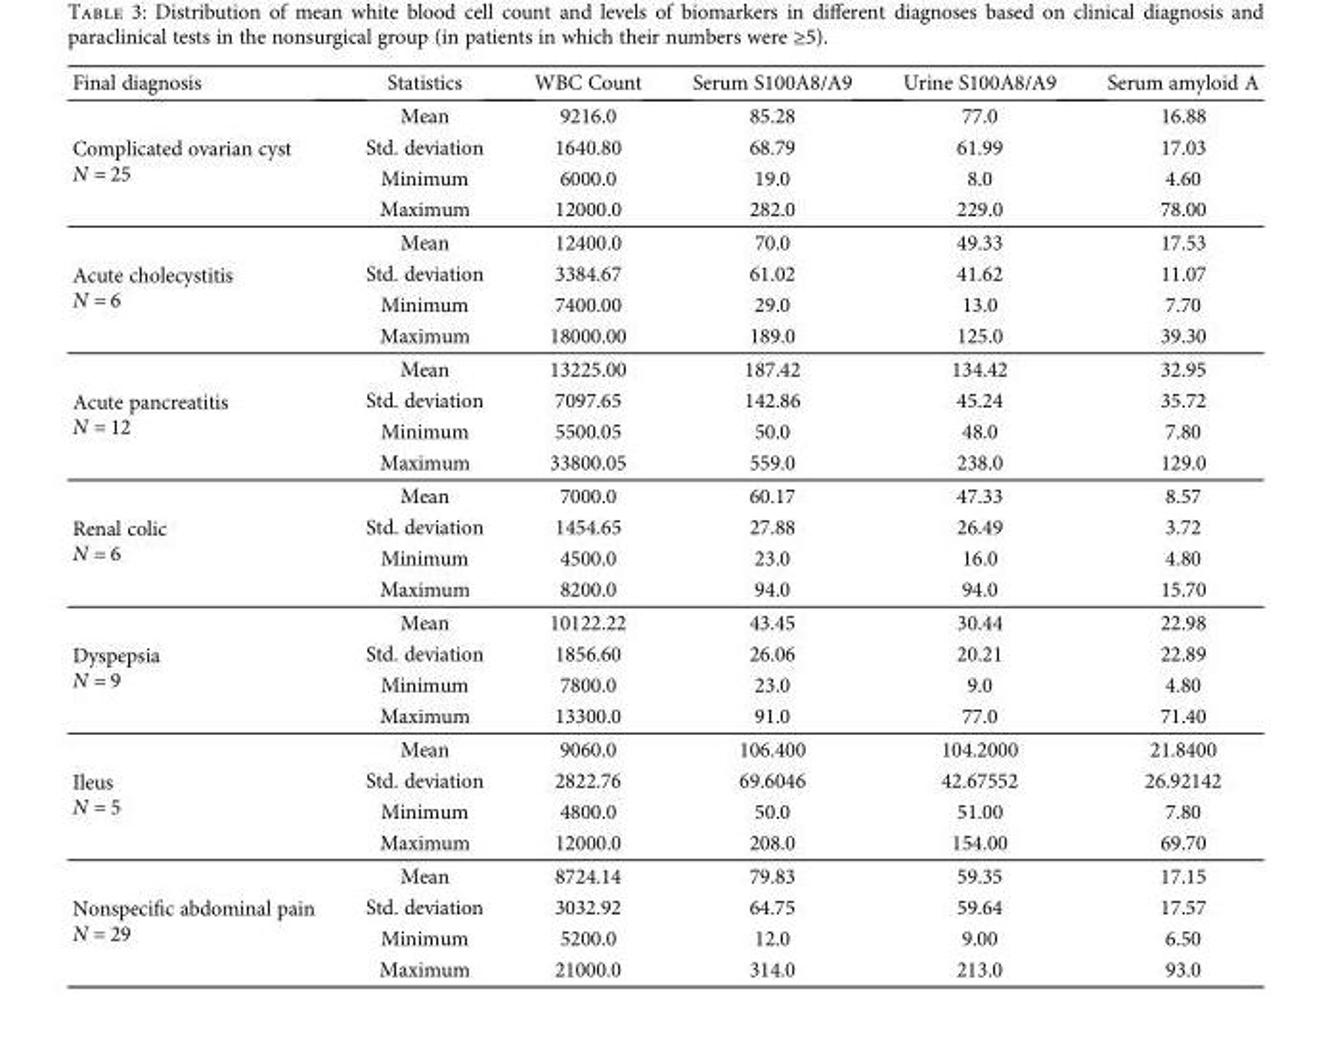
<table><thead><tr><td>Final diagnosis</td><td>Statistics</td><td>WBC Count</td><td>Serum S100A8/A9</td><td>Urine S100A8/A9</td><td>Serum amyloid A</td></tr></thead><tbody><tr><td rowspan="4">Complicated ovarian cyst N = 25</td><td>Mean</td><td>9216.0</td><td>85.28</td><td>77.0</td><td>16.88</td></tr><tr><td>Std. deviation</td><td>1640.80</td><td>68.79</td><td>61.99</td><td>17.03</td></tr><tr><td>Minimum</td><td>6000.0</td><td>19.0</td><td>8.0</td><td>4.60</td></tr><tr><td>Maximum</td><td>12000.0</td><td>282.0</td><td>229.0</td><td>78.00</td></tr><tr><td rowspan="4">Acute cholecystitis N = 6</td><td>Mean</td><td>12400.0</td><td>70.0</td><td>49.33</td><td>17.53</td></tr><tr><td>Std. deviation</td><td>3384.67</td><td>61.02</td><td>41.62</td><td>11.07</td></tr><tr><td>Minimum</td><td>7400.00</td><td>29.0</td><td>13.0</td><td>7.70</td></tr><tr><td>Maximum</td><td>18000.00</td><td>189.0</td><td>125.0</td><td>39.30</td></tr><tr><td rowspan="4">Acute pancreatitis N = 12</td><td>Mean</td><td>13225.00</td><td>187.42</td><td>134.42</td><td>32.95</td></tr><tr><td>Std. deviation</td><td>7097.65</td><td>142.86</td><td>45.24</td><td>35.72</td></tr><tr><td>Minimum</td><td>5500.05</td><td>50.0</td><td>48.0</td><td>7.80</td></tr><tr><td>Maximum</td><td>33800.05</td><td>559.0</td><td>238.0</td><td>129.0</td></tr><tr><td rowspan="4">Renal colic N = 6</td><td>Mean</td><td>7000.0</td><td>60.17</td><td>47.33</td><td>8.57</td></tr><tr><td>Std. deviation</td><td>1454.65</td><td>27.88</td><td>26.49</td><td>3.72</td></tr><tr><td>Minimum</td><td>4500.0</td><td>23.0</td><td>16.0</td><td>4.80</td></tr><tr><td>Maximum</td><td>8200.0</td><td>94.0</td><td>94.0</td><td>15.70</td></tr><tr><td rowspan="4">Dyspepsia N = 9</td><td>Mean</td><td>10122.22</td><td>43.45</td><td>30.44</td><td>22.98</td></tr><tr><td>Std. deviation</td><td>1856.60</td><td>26.06</td><td>20.21</td><td>22.89</td></tr><tr><td>Minimum</td><td>7800.0</td><td>23.0</td><td>9.0</td><td>4.80</td></tr><tr><td>Maximum</td><td>13300.0</td><td>91.0</td><td>77.0</td><td>71.40</td></tr><tr><td rowspan="4">Ileus N = 5</td><td>Mean</td><td>9060.0</td><td>106.400</td><td>104.2000</td><td>21.8400</td></tr><tr><td>Std. deviation</td><td>2822.76</td><td>69.6046</td><td>42.67552</td><td>26.92142</td></tr><tr><td>Minimum</td><td>4800.0</td><td>50.0</td><td>51.00</td><td>7.80</td></tr><tr><td>Maximum</td><td>12000.0</td><td>208.0</td><td>154.00</td><td>69.70</td></tr><tr><td rowspan="4">Nonspecific abdominal pain N = 29</td><td>Mean</td><td>8724.14</td><td>79.83</td><td>59.35</td><td>17.15</td></tr><tr><td>Std. deviation</td><td>3032.92</td><td>64.75</td><td>59.64</td><td>17.57</td></tr><tr><td>Minimum</td><td>5200.0</td><td>12.0</td><td>9.00</td><td>6.50</td></tr><tr><td>Maximum</td><td>21000.0</td><td>314.0</td><td>213.0</td><td>93.0</td></tr></tbody></table>